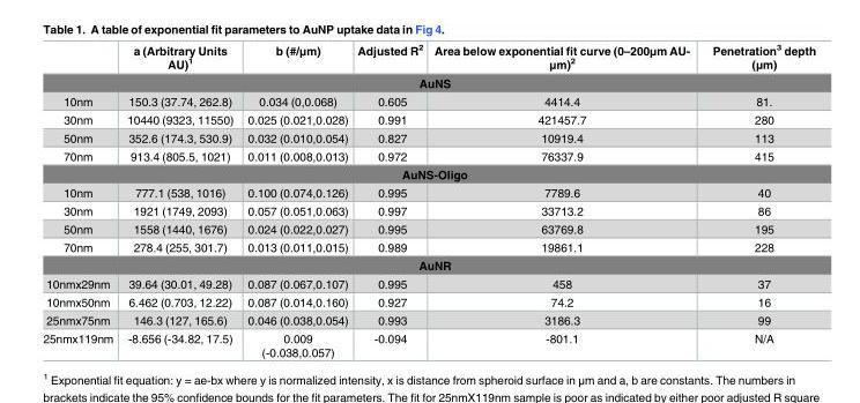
<table><thead><tr><td></td><td>a (Arbitrary Units AU)<sup>1</sup></td><td>b (#/μm)</td><td>Adjusted R<sup>2</sup></td><td>Area below exponential fit curve (0–200μm AU- μm)<sup>2</sup></td><td>Penetration<sup>3</sup> depth (μm)</td></tr></thead><tbody><tr><td colspan="6">AuNS</td></tr><tr><td>10nm</td><td>150.3 (37.74, 262.8)</td><td>0.034 (0,0.068)</td><td>0.605</td><td>4414.4</td><td>81.</td></tr><tr><td>30nm</td><td>10440 (9323, 11550)</td><td>0.025 (0.021,0.028)</td><td>0.991</td><td>421457.7</td><td>280</td></tr><tr><td>50nm</td><td>352.6 (174.3, 530.9)</td><td>0.032 (0.010,0.054)</td><td>0.827</td><td>10919.4</td><td>113</td></tr><tr><td>70nm</td><td>913.4 (805.5, 1021)</td><td>0.011 (0.008,0.013)</td><td>0.972</td><td>76337.9</td><td>415</td></tr><tr><td colspan="6">AuNS-Oligo</td></tr><tr><td>10nm</td><td>777.1 (538, 1016)</td><td>0.100 (0.074,0.126)</td><td>0.995</td><td>7789.6</td><td>40</td></tr><tr><td>30nm</td><td>1921 (1749, 2093)</td><td>0.057 (0.051,0.063)</td><td>0.997</td><td>33713.2</td><td>86</td></tr><tr><td>50nm</td><td>1558 (1440, 1676)</td><td>0.024 (0.022,0.027)</td><td>0.995</td><td>63769.8</td><td>195</td></tr><tr><td>70nm</td><td>278.4 (255, 301.7)</td><td>0.013 (0.011,0.015)</td><td>0.989</td><td>19861.1</td><td>228</td></tr><tr><td colspan="6">AuNR</td></tr><tr><td>10nmx29nm</td><td>39.64 (30.01, 49.28)</td><td>0.087 (0.067,0.107)</td><td>0.995</td><td>458</td><td>37</td></tr><tr><td>10nmx50nm</td><td>6.462 (0.703, 12.22)</td><td>0.087 (0.014,0.160)</td><td>0.927</td><td>74.2</td><td>16</td></tr><tr><td>25nmx75nm</td><td>146.3 (127, 165.6)</td><td>0.046 (0.038,0.054)</td><td>0.993</td><td>3186.3</td><td>99</td></tr><tr><td>25nmx119nm</td><td>-8.656 (-34.82, 17.5)</td><td>0.009 (-0.038,0.057)</td><td>-0.094</td><td>-801.1</td><td>N/A</td></tr></tbody></table>